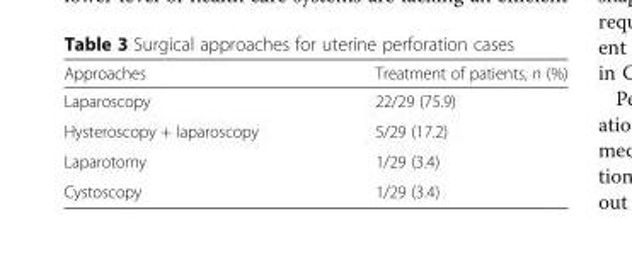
<table><thead><tr><td>Approaches</td><td>Treatment of patients, n (%)</td></tr></thead><tbody><tr><td>Laparoscopy</td><td>22/29 (75.9)</td></tr><tr><td>Hysteroscopy + laparoscopy</td><td>5/29 (17.2)</td></tr><tr><td>Laparotomy</td><td>1/29 (3.4)</td></tr><tr><td>Cystoscopy</td><td>1/29 (3.4)</td></tr></tbody></table>